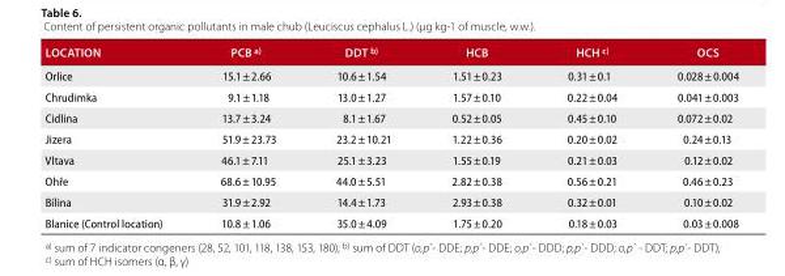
<table><thead><tr><td>loCaTIon</td><td>PCB <sup>a)</sup></td><td>ddT <sup>b)</sup></td><td>HCB</td><td>HCH <sup>c)</sup></td><td>oCS</td></tr></thead><tbody><tr><td>Orlice</td><td>15.1 ± 2.66</td><td>10.6 ± 1.54</td><td>1.51 ± 0.23</td><td>0.31 ± 0.1</td><td>0.028 ± 0.004</td></tr><tr><td>Chrudimka</td><td>9.1 ± 1.18</td><td>13.0 ± 1.27</td><td>1.57 ± 0.10</td><td>0.22 ± 0.04</td><td>0.041 ± 0.003</td></tr><tr><td>Cidlina</td><td>13.7 ± 3.24</td><td>8.1 ± 1.67</td><td>0.52 ± 0.05</td><td>0.45 ± 0.10</td><td>0.072 ± 0.02</td></tr><tr><td>Jizera</td><td>51.9 ± 23.73</td><td>23.2 ± 10.21</td><td>1.22 ± 0.36</td><td>0.20 ± 0.02</td><td>0.24 ± 0.13</td></tr><tr><td>Vltava</td><td>46.1 ± 7.11</td><td>25.1 ± 3.23</td><td>1.55 ± 0.19</td><td>0.21 ± 0.03</td><td>0.12 ± 0.02</td></tr><tr><td>Ohře</td><td>68.6 ± 10.95</td><td>44.0 ± 5.51</td><td>2.82 ± 0.38</td><td>0.56 ± 0.21</td><td>0.46 ± 0.23</td></tr><tr><td>Bílina</td><td>31.9 ± 2.92</td><td>14.4 ± 1.73</td><td>2.93 ± 0.38</td><td>0.32 ± 0.01</td><td>0.10 ± 0.02</td></tr><tr><td>Blanice (Control location)</td><td>10.8 ± 1.06</td><td>35.0 ± 4.09</td><td>1.75 ± 0.20</td><td>0.18 ± 0.03</td><td>0.03 ± 0.008</td></tr></tbody></table>